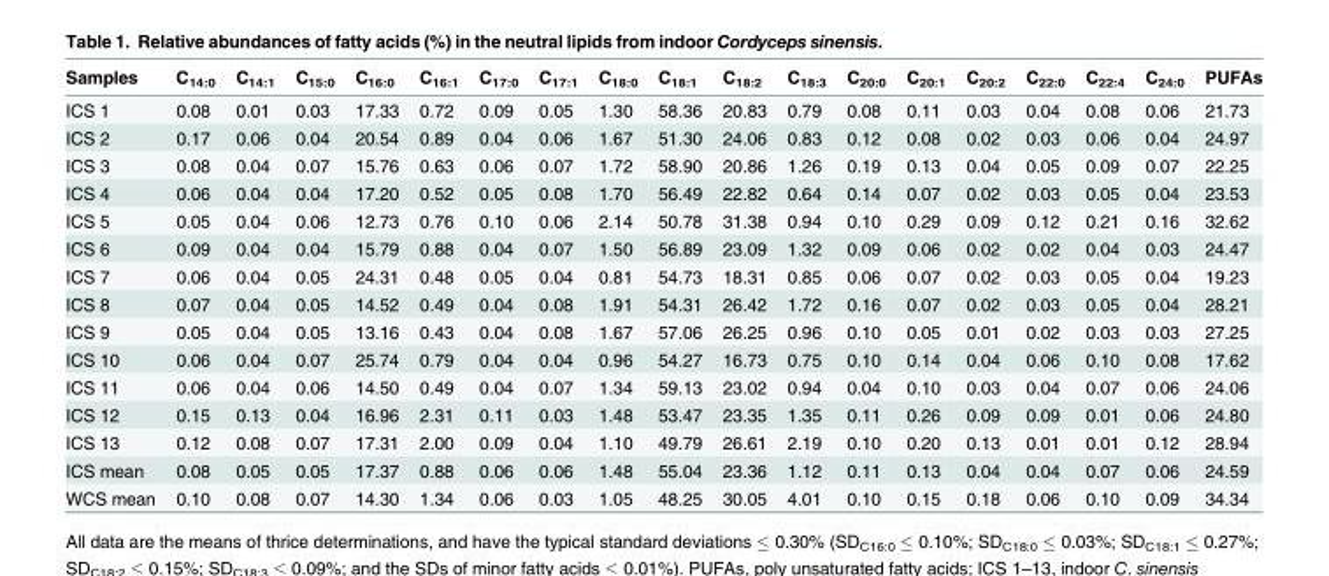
<table><thead><tr><td>Samples</td><td>C<sub>14:0</sub></td><td>C<sub>14:1</sub></td><td>C<sub>15:0</sub></td><td>C<sub>16:0</sub></td><td>C<sub>16:1</sub></td><td>C<sub>17:0</sub></td><td>C<sub>17:1</sub></td><td>C<sub>18:0</sub></td><td>C<sub>18:1</sub></td><td>C<sub>18:2</sub></td><td>C<sub>18:3</sub></td><td>C<sub>20:0</sub></td><td>C<sub>20:1</sub></td><td>C<sub>20:2</sub></td><td>C<sub>22:0</sub></td><td>C<sub>22:4</sub></td><td>C<sub>24:0</sub></td><td>PUFAs</td></tr></thead><tbody><tr><td>ICS 1</td><td>0.08</td><td>0.01</td><td>0.03</td><td>17.33</td><td>0.72</td><td>0.09</td><td>0.05</td><td>1.30</td><td>58.36</td><td>20.83</td><td>0.79</td><td>0.08</td><td>0.11</td><td>0.03</td><td>0.04</td><td>0.08</td><td>0.06</td><td>21.73</td></tr><tr><td>ICS 2</td><td>0.17</td><td>0.06</td><td>0.04</td><td>20.54</td><td>0.89</td><td>0.04</td><td>0.06</td><td>1.67</td><td>51.30</td><td>24.06</td><td>0.83</td><td>0.12</td><td>0.08</td><td>0.02</td><td>0.03</td><td>0.06</td><td>0.04</td><td>24.97</td></tr><tr><td>ICS 3</td><td>0.08</td><td>0.04</td><td>0.07</td><td>15.76</td><td>0.63</td><td>0.06</td><td>0.07</td><td>1.72</td><td>58.90</td><td>20.86</td><td>1.26</td><td>0.19</td><td>0.13</td><td>0.04</td><td>0.05</td><td>0.09</td><td>0.07</td><td>22.25</td></tr><tr><td>ICS 4</td><td>0.06</td><td>0.04</td><td>0.04</td><td>17.20</td><td>0.52</td><td>0.05</td><td>0.08</td><td>1.70</td><td>56.49</td><td>22.82</td><td>0.64</td><td>0.14</td><td>0.07</td><td>0.02</td><td>0.03</td><td>0.05</td><td>0.04</td><td>23.53</td></tr><tr><td>ICS 5</td><td>0.05</td><td>0.04</td><td>0.06</td><td>12.73</td><td>0.76</td><td>0.10</td><td>0.06</td><td>2.14</td><td>50.78</td><td>31.38</td><td>0.94</td><td>0.10</td><td>0.29</td><td>0.09</td><td>0.12</td><td>0.21</td><td>0.16</td><td>32.62</td></tr><tr><td>ICS 6</td><td>0.09</td><td>0.04</td><td>0.04</td><td>15.79</td><td>0.88</td><td>0.04</td><td>0.07</td><td>1.50</td><td>56.89</td><td>23.09</td><td>1.32</td><td>0.09</td><td>0.06</td><td>0.02</td><td>0.02</td><td>0.04</td><td>0.03</td><td>24.47</td></tr><tr><td>ICS 7</td><td>0.06</td><td>0.04</td><td>0.05</td><td>24.31</td><td>0.48</td><td>0.05</td><td>0.04</td><td>0.81</td><td>54.73</td><td>18.31</td><td>0.85</td><td>0.06</td><td>0.07</td><td>0.02</td><td>0.03</td><td>0.05</td><td>0.04</td><td>19.23</td></tr><tr><td>ICS 8</td><td>0.07</td><td>0.04</td><td>0.05</td><td>14.52</td><td>0.49</td><td>0.04</td><td>0.08</td><td>1.91</td><td>54.31</td><td>26.42</td><td>1.72</td><td>0.16</td><td>0.07</td><td>0.02</td><td>0.03</td><td>0.05</td><td>0.04</td><td>28.21</td></tr><tr><td>ICS 9</td><td>0.05</td><td>0.04</td><td>0.05</td><td>13.16</td><td>0.43</td><td>0.04</td><td>0.08</td><td>1.67</td><td>57.06</td><td>26.25</td><td>0.96</td><td>0.10</td><td>0.05</td><td>0.01</td><td>0.02</td><td>0.03</td><td>0.03</td><td>27.25</td></tr><tr><td>ICS 10</td><td>0.06</td><td>0.04</td><td>0.07</td><td>25.74</td><td>0.79</td><td>0.04</td><td>0.04</td><td>0.96</td><td>54.27</td><td>16.73</td><td>0.75</td><td>0.10</td><td>0.14</td><td>0.04</td><td>0.06</td><td>0.10</td><td>0.08</td><td>17.62</td></tr><tr><td>ICS 11</td><td>0.06</td><td>0.04</td><td>0.06</td><td>14.50</td><td>0.49</td><td>0.04</td><td>0.07</td><td>1.34</td><td>59.13</td><td>23.02</td><td>0.94</td><td>0.04</td><td>0.10</td><td>0.03</td><td>0.04</td><td>0.07</td><td>0.06</td><td>24.06</td></tr><tr><td>ICS 12</td><td>0.15</td><td>0.13</td><td>0.04</td><td>16.96</td><td>2.31</td><td>0.11</td><td>0.03</td><td>1.48</td><td>53.47</td><td>23.35</td><td>1.35</td><td>0.11</td><td>0.26</td><td>0.09</td><td>0.09</td><td>0.01</td><td>0.06</td><td>24.80</td></tr><tr><td>ICS 13</td><td>0.12</td><td>0.08</td><td>0.07</td><td>17.31</td><td>2.00</td><td>0.09</td><td>0.04</td><td>1.10</td><td>49.79</td><td>26.61</td><td>2.19</td><td>0.10</td><td>0.20</td><td>0.13</td><td>0.01</td><td>0.01</td><td>0.12</td><td>28.94</td></tr><tr><td>ICS mean</td><td>0.08</td><td>0.05</td><td>0.05</td><td>17.37</td><td>0.88</td><td>0.06</td><td>0.06</td><td>1.48</td><td>55.04</td><td>23.36</td><td>1.12</td><td>0.11</td><td>0.13</td><td>0.04</td><td>0.04</td><td>0.07</td><td>0.06</td><td>24.59</td></tr><tr><td>WCS mean</td><td>0.10</td><td>0.08</td><td>0.07</td><td>14.30</td><td>1.34</td><td>0.06</td><td>0.03</td><td>1.05</td><td>48.25</td><td>30.05</td><td>4.01</td><td>0.10</td><td>0.15</td><td>0.18</td><td>0.06</td><td>0.10</td><td>0.09</td><td>34.34</td></tr></tbody></table>